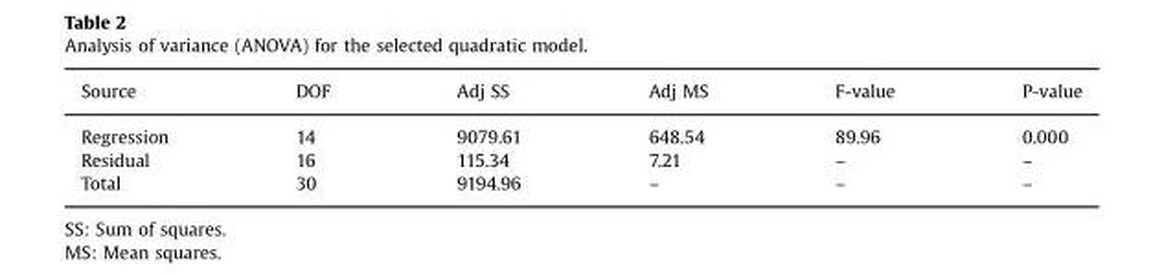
<table><thead><tr><td>Source</td><td>DOF</td><td>Adj SS</td><td>Adj MS</td><td>F-value</td><td>P-value</td></tr></thead><tbody><tr><td>Regression</td><td>14</td><td>9079.61</td><td>648.54</td><td>89.96</td><td>0.000</td></tr><tr><td>Residual</td><td>16</td><td>115.34</td><td>7.21</td><td>–</td><td>–</td></tr><tr><td>Total</td><td>30</td><td>9194.96</td><td>–</td><td>–</td><td>–</td></tr></tbody></table>